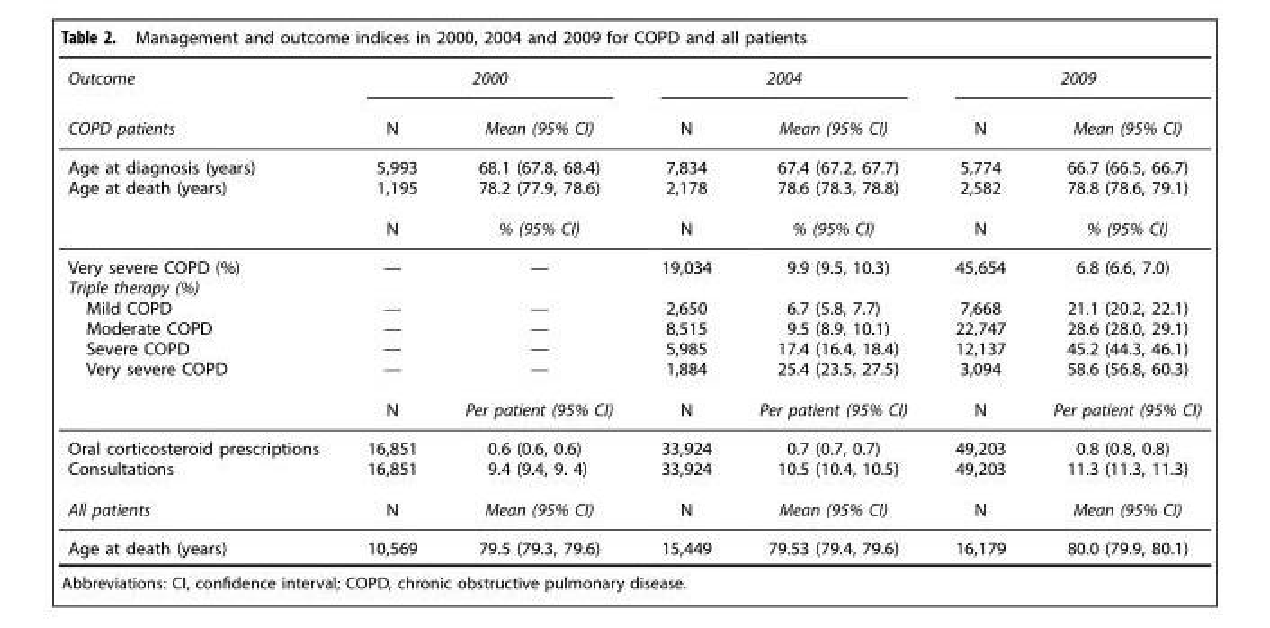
<table><thead><tr><td rowspan="2">Outcome COPD patients</td><td colspan="2">2000</td><td colspan="2">2004</td><td colspan="2">2009</td></tr><tr><td>N</td><td>Mean (95% CI)</td><td>N</td><td>Mean (95% CI)</td><td>N</td><td>Mean (95% CI)</td></tr></thead><tbody><tr><td>Age at diagnosis (years)</td><td>5,993</td><td>68.1 (67.8, 68.4)</td><td>7,834</td><td>67.4 (67.2, 67.7)</td><td>5,774</td><td>66.7 (66.5, 66.7)</td></tr><tr><td rowspan="2">Age at death (years)</td><td>1,195</td><td>78.2 (77.9, 78.6)</td><td>2,178</td><td>78.6 (78.3, 78.8)</td><td>2,582</td><td>78.8 (78.6, 79.1)</td></tr><tr><td>N</td><td>% (95% CI)</td><td>N</td><td>% (95% CI)</td><td>N</td><td>% (95% CI)</td></tr><tr><td>Very severe COPD (%)</td><td>—</td><td>—</td><td>19,034</td><td>9.9 (9.5, 10.3)</td><td>45,654</td><td>6.8 (6.6, 7.0)</td></tr><tr><td colspan="7">Triple therapy (%)</td></tr><tr><td>Mild COPD</td><td>—</td><td>—</td><td>2,650</td><td>6.7 (5.8, 7.7)</td><td>7,668</td><td>21.1 (20.2, 22.1)</td></tr><tr><td>Moderate COPD</td><td>—</td><td>—</td><td>8,515</td><td>9.5 (8.9, 10.1)</td><td>22,747</td><td>28.6 (28.0, 29.1)</td></tr><tr><td>Severe COPD</td><td>—</td><td>—</td><td>5,985</td><td>17.4 (16.4, 18.4)</td><td>12,137</td><td>45.2 (44.3, 46.1)</td></tr><tr><td rowspan="2">Very severe COPD</td><td>—</td><td>—</td><td>1,884</td><td>25.4 (23.5, 27.5)</td><td>3,094</td><td>58.6 (56.8, 60.3)</td></tr><tr><td>N</td><td>Per patient (95% CI)</td><td>N</td><td>Per patient (95% CI)</td><td>N</td><td>Per patient (95% CI)</td></tr><tr><td>Oral corticosteroid prescriptions</td><td>16,851</td><td>0.6 (0.6, 0.6)</td><td>33,924</td><td>0.7 (0.7, 0.7)</td><td>49,203</td><td>0.8 (0.8, 0.8)</td></tr><tr><td>Consultations</td><td>16,851</td><td>9.4 (9.4, 9. 4)</td><td>33,924</td><td>10.5 (10.4, 10.5)</td><td>49,203</td><td>11.3 (11.3, 11.3)</td></tr><tr><td>All patients</td><td>N</td><td>Mean (95% CI)</td><td>N</td><td>Mean (95% CI)</td><td>N</td><td>Mean (95% CI)</td></tr><tr><td>Age at death (years)</td><td>10,569</td><td>79.5 (79.3, 79.6)</td><td>15,449</td><td>79.53 (79.4, 79.6)</td><td>16,179</td><td>80.0 (79.9, 80.1)</td></tr></tbody></table>